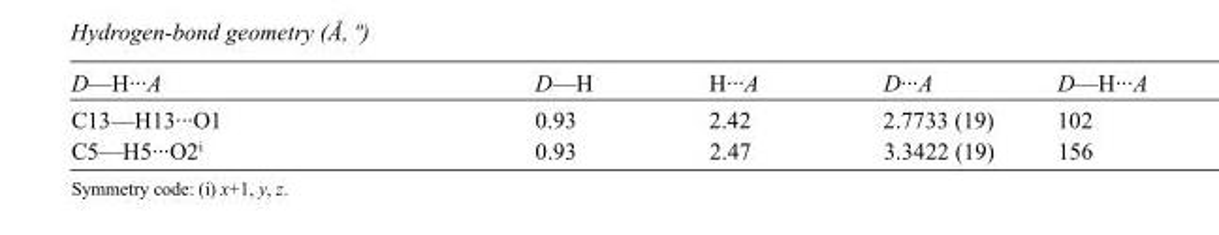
<table><tbody><tr><td>D—H···A</td><td>D—H</td><td>H···A</td><td>D···A</td><td>D—H···A</td></tr><tr><td>C13—H13···O1</td><td>0.93</td><td>2.42</td><td>2.7733 (19)</td><td>102</td></tr><tr><td>C5—H5···O2<sup>i</sup></td><td>0.93</td><td>2.47</td><td>3.3422 (19)</td><td>156</td></tr></tbody></table>